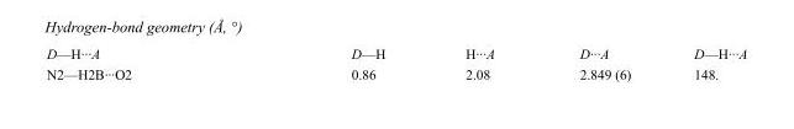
<table><tbody><tr><td>D—H···A</td><td>D—H</td><td>H···A</td><td>D···A</td><td>D—H···A</td></tr><tr><td>N2—H2B···O2</td><td>0.86</td><td>2.08</td><td>2.849 (6)</td><td>148.</td></tr></tbody></table>